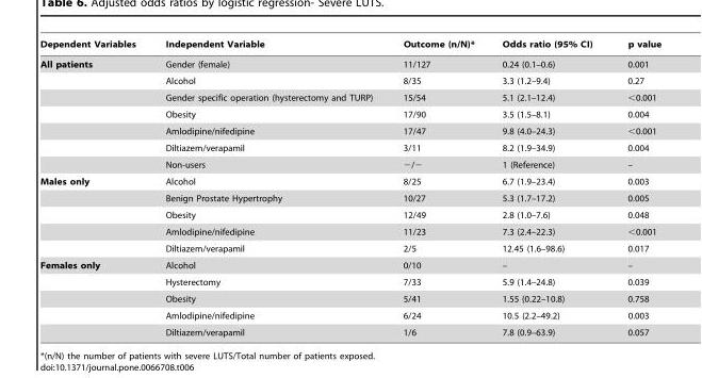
<table><thead><tr><td>Dependent Variables</td><td>Independent Variable</td><td>Outcome (n/N)*</td><td>Odds ratio (95% CI)</td><td>p value</td></tr></thead><tbody><tr><td rowspan="7">All patients</td><td>Gender (female)</td><td>11/127</td><td>0.24 (0.1–0.6)</td><td>0.001</td></tr><tr><td>Alcohol</td><td>8/35</td><td>3.3 (1.2–9.4)</td><td>0.27</td></tr><tr><td>Gender specific operation (hysterectomy and TURP)</td><td>15/54</td><td>5.1 (2.1–12.4)</td><td>&lt;0.001</td></tr><tr><td>Obesity</td><td>17/90</td><td>3.5 (1.5–8.1)</td><td>0.004</td></tr><tr><td>Amlodipine/nifedipine</td><td>17/47</td><td>9.8 (4.0–24.3)</td><td>&lt;0.001</td></tr><tr><td>Diltiazem/verapamil</td><td>3/11</td><td>8.2 (1.9–34.9)</td><td>0.004</td></tr><tr><td>Non-users</td><td>−/−</td><td>1 (Reference)</td><td>–</td></tr><tr><td rowspan="5">Males only</td><td>Alcohol</td><td>8/25</td><td>6.7 (1.9–23.4)</td><td>0.003</td></tr><tr><td>Benign Prostate Hypertrophy</td><td>10/27</td><td>5.3 (1.7–17.2)</td><td>0.005</td></tr><tr><td>Obesity</td><td>12/49</td><td>2.8 (1.0–7.6)</td><td>0.048</td></tr><tr><td>Amlodipine/nifedipine</td><td>11/23</td><td>7.3 (2.4–22.3)</td><td>&lt;0.001</td></tr><tr><td>Diltiazem/verapamil</td><td>2/5</td><td>12.45 (1.6–98.6)</td><td>0.017</td></tr><tr><td rowspan="5">Females only</td><td>Alcohol</td><td>0/10</td><td>–</td><td>–</td></tr><tr><td>Hysterectomy</td><td>7/33</td><td>5.9 (1.4–24.8)</td><td>0.039</td></tr><tr><td>Obesity</td><td>5/41</td><td>1.55 (0.22–10.8)</td><td>0.758</td></tr><tr><td>Amlodipine/nifedipine</td><td>6/24</td><td>10.5 (2.2–49.2)</td><td>0.003</td></tr><tr><td>Diltiazem/verapamil</td><td>1/6</td><td>7.8 (0.9–63.9)</td><td>0.057</td></tr></tbody></table>